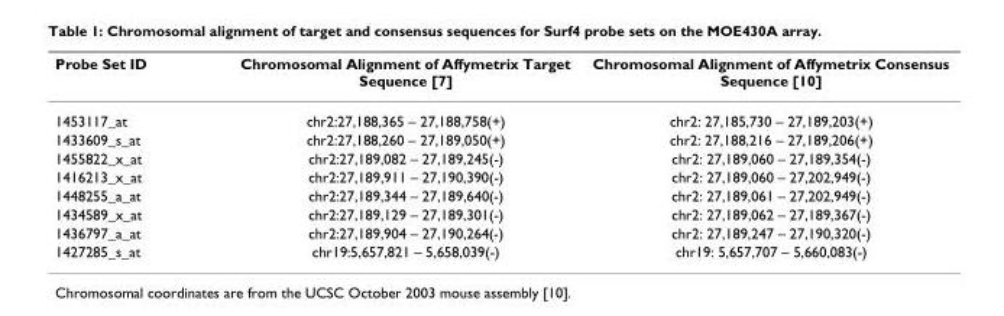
<table><thead><tr><td>Probe Set ID</td><td>Chromosomal Alignment of Affymetrix Target Sequence [7]</td><td>Chromosomal Alignment of Affymetrix Consensus Sequence [10]</td></tr></thead><tbody><tr><td>1453117_at</td><td>chr2:27,188,365 – 27,188,758(+)</td><td>chr2: 27,185,730 – 27,189,203(+)</td></tr><tr><td>1433609_s_at</td><td>chr2:27,188,260 – 27,189,050(+)</td><td>chr2: 27,188,216 – 27,189,206(+)</td></tr><tr><td>1455822_x_at</td><td>chr2:27,189,082 – 27,189,245(-)</td><td>chr2: 27,189,060 – 27,189,354(-)</td></tr><tr><td>1416213_x_at</td><td>chr2:27,189,911 – 27,190,390(-)</td><td>chr2: 27,189,060 – 27,202,949(-)</td></tr><tr><td>1448255_a_at</td><td>chr2:27,189,344 – 27,189,640(-)</td><td>chr2: 27,189,061 – 27,202,949(-)</td></tr><tr><td>1434589_x_at</td><td>chr2:27,189,129 – 27,189,301(-)</td><td>chr2: 27,189,062 – 27,189,367(-)</td></tr><tr><td>1436797_a_at</td><td>chr2:27,189,904 – 27,190,264(-)</td><td>chr2: 27,189,247 – 27,190,320(-)</td></tr><tr><td>1427285_s_at</td><td>chr19:5,657,821 – 5,658,039(-)</td><td>chr19: 5,657,707 – 5,660,083(-)</td></tr></tbody></table>